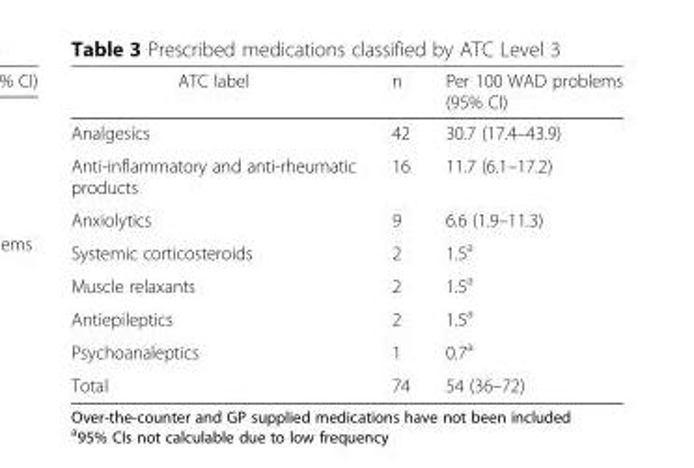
<table><thead><tr><td>ATC label</td><td>n</td><td>Per 100 WAD problems (95% CI)</td></tr></thead><tbody><tr><td>Analgesics</td><td>42</td><td>30.7 (17.4–43.9)</td></tr><tr><td>Anti-inflammatory and anti-rheumatic products</td><td>16</td><td>11.7 (6.1–17.2)</td></tr><tr><td>Anxiolytics</td><td>9</td><td>6.6 (1.9–11.3)</td></tr><tr><td>Systemic corticosteroids</td><td>2</td><td>1.5<sup>a</sup></td></tr><tr><td>Muscle relaxants</td><td>2</td><td>1.5<sup>a</sup></td></tr><tr><td>Antiepileptics</td><td>2</td><td>1.5<sup>a</sup></td></tr><tr><td>Psychoanaleptics</td><td>1</td><td>0.7<sup>a</sup></td></tr><tr><td>Total</td><td>74</td><td>54 (36–72)</td></tr></tbody></table>